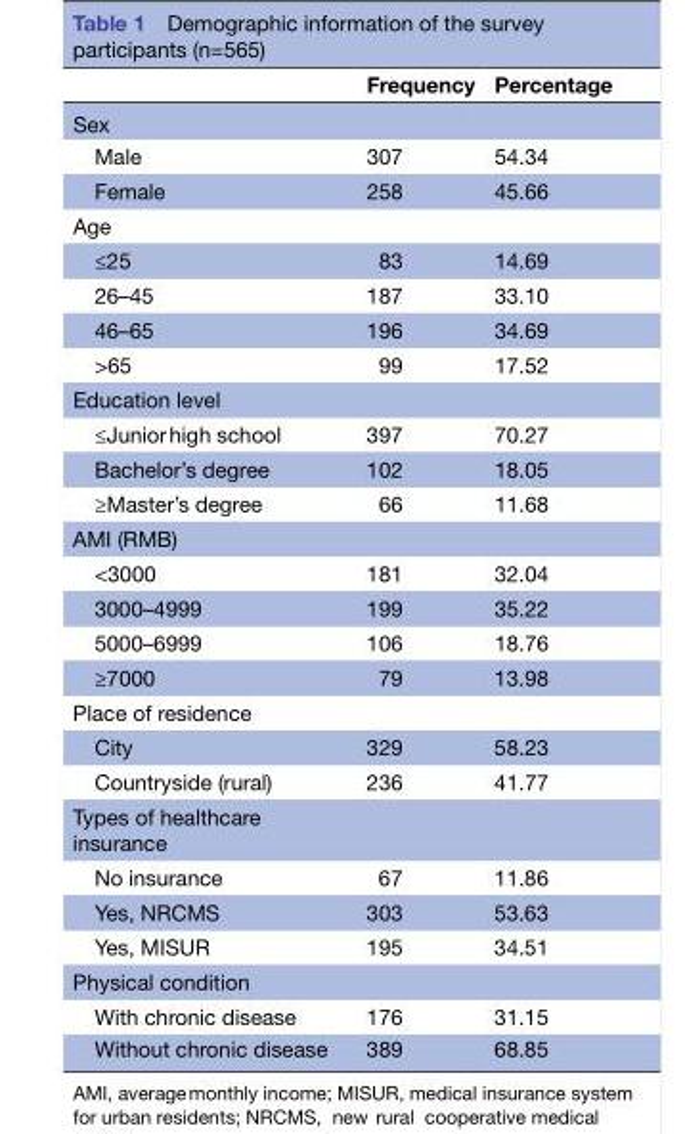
<table><thead><tr><td></td><td>Frequency</td><td>Percentage</td></tr></thead><tbody><tr><td colspan="3">Sex</td></tr><tr><td>Male</td><td>307</td><td>54.34</td></tr><tr><td>Female</td><td>258</td><td>45.66</td></tr><tr><td colspan="3">Age</td></tr><tr><td>≤25</td><td>83</td><td>14.69</td></tr><tr><td>26–45</td><td>187</td><td>33.10</td></tr><tr><td>46–65</td><td>196</td><td>34.69</td></tr><tr><td>&gt;65</td><td>99</td><td>17.52</td></tr><tr><td colspan="3">Education level</td></tr><tr><td>≤Junior high school</td><td>397</td><td>70.27</td></tr><tr><td>Bachelor’s degree</td><td>102</td><td>18.05</td></tr><tr><td>≥Master’s degree</td><td>66</td><td>11.68</td></tr><tr><td colspan="3">AMI (RMB)</td></tr><tr><td>&lt;3000</td><td>181</td><td>32.04</td></tr><tr><td>3000–4999</td><td>199</td><td>35.22</td></tr><tr><td>5000–6999</td><td>106</td><td>18.76</td></tr><tr><td>≥7000</td><td>79</td><td>13.98</td></tr><tr><td colspan="3">Place of residence</td></tr><tr><td>City</td><td>329</td><td>58.23</td></tr><tr><td>Countryside (rural)</td><td>236</td><td>41.77</td></tr><tr><td colspan="3">Types of healthcare insurance</td></tr><tr><td>No insurance</td><td>67</td><td>11.86</td></tr><tr><td>Yes, NRCMS</td><td>303</td><td>53.63</td></tr><tr><td>Yes, MISUR</td><td>195</td><td>34.51</td></tr><tr><td colspan="3">Physical condition</td></tr><tr><td>With chronic disease</td><td>176</td><td>31.15</td></tr><tr><td>Without chronic disease</td><td>389</td><td>68.85</td></tr></tbody></table>